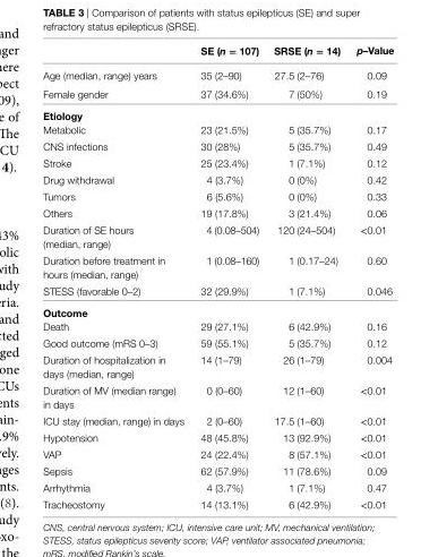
<table><thead><tr><td></td><td>se (n = 107)</td><td>srse (n = 14)</td><td>p–Value</td></tr></thead><tbody><tr><td>Age (median, range) years</td><td>35 (2–90)</td><td>27.5 (2–76)</td><td>0.09</td></tr><tr><td>Female gender</td><td>37 (34.6%)</td><td>7 (50%)</td><td>0.19</td></tr><tr><td colspan="4">etiology</td></tr><tr><td>Metabolic</td><td>23 (21.5%)</td><td>5 (35.7%)</td><td>0.17</td></tr><tr><td>CNS infections</td><td>30 (28%)</td><td>5 (35.7%)</td><td>0.49</td></tr><tr><td>Stroke</td><td>25 (23.4%)</td><td>1 (7.1%)</td><td>0.12</td></tr><tr><td>Drug withdrawal</td><td>4 (3.7%)</td><td>0 (0%)</td><td>0.42</td></tr><tr><td>Tumors</td><td>6 (5.6%)</td><td>0 (0%)</td><td>0.33</td></tr><tr><td>Others</td><td>19 (17.8%)</td><td>3 (21.4%)</td><td>0.06</td></tr><tr><td>Duration of SE hours (median, range)</td><td>4 (0.08–504)</td><td>120 (24–504)</td><td>&lt;0.01</td></tr><tr><td>Duration before treatment in hours (median, range)</td><td>1 (0.08–160)</td><td>1 (0.17–24)</td><td>0.60</td></tr><tr><td>STESS (favorable 0–2)</td><td>32 (29.9%)</td><td>1 (7.1%)</td><td>0.046</td></tr><tr><td colspan="4">Outcome</td></tr><tr><td>Death</td><td>29 (27.1%)</td><td>6 (42.9%)</td><td>0.16</td></tr><tr><td>Good outcome (mRS 0–3)</td><td>59 (55.1%)</td><td>5 (35.7%)</td><td>0.12</td></tr><tr><td>Duration of hospitalization in days (median, range)</td><td>14 (1–79)</td><td>26 (1–79)</td><td>0.004</td></tr><tr><td>Duration of MV (median range) in days</td><td>0 (0–60)</td><td>12 (1–60)</td><td>&lt;0.01</td></tr><tr><td>ICU stay (median, range) in days</td><td>2 (0–60)</td><td>17.5 (1–60)</td><td>&lt;0.01</td></tr><tr><td>Hypotension</td><td>48 (45.8%)</td><td>13 (92.9%)</td><td>&lt;0.01</td></tr><tr><td>VAP</td><td>24 (22.4%)</td><td>8 (57.1%)</td><td>&lt;0.01</td></tr><tr><td>Sepsis</td><td>62 (57.9%)</td><td>11 (78.6%)</td><td>0.09</td></tr><tr><td>Arrhythmia</td><td>4 (3.7%)</td><td>1 (7.1%)</td><td>0.47</td></tr><tr><td>Tracheostomy</td><td>14 (13.1%)</td><td>6 (42.9%)</td><td>&lt;0.01</td></tr></tbody></table>